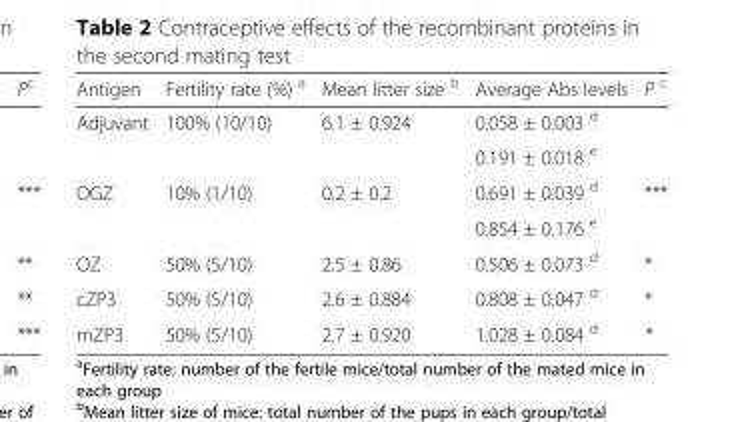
<table><thead><tr><td>Antigen</td><td>Fertility rate (%) <sup>a</sup></td><td>Mean litter size <sup>b</sup></td><td>Average Abs levels</td><td>P <sup>c</sup></td></tr></thead><tbody><tr><td rowspan="2">Adjuvant</td><td rowspan="2">100% (10/10)</td><td rowspan="2">6.1 ± 0.924</td><td>0.058 ± 0.003 <sup>d</sup></td><td rowspan="2"></td></tr><tr><td>0.191 ± 0.018 <sup>e</sup></td></tr><tr><td rowspan="2">OGZ</td><td rowspan="2">10% (1/10)</td><td rowspan="2">0.2 ± 0.2</td><td>0.691 ± 0.039 <sup>d</sup></td><td rowspan="2">***</td></tr><tr><td>0.854 ± 0.176 <sup>e</sup></td></tr><tr><td>OZ</td><td>50% (5/10)</td><td>2.5 ± 0.86</td><td>0.506 ± 0.073 <sup>d</sup></td><td>*</td></tr><tr><td>cZP3</td><td>50% (5/10)</td><td>2.6 ± 0.884</td><td>0.808 ± 0.047 <sup>d</sup></td><td>*</td></tr><tr><td>mZP3</td><td>50% (5/10)</td><td>2.7 ± 0.920</td><td>1.028 ± 0.084 <sup>d</sup></td><td>*</td></tr></tbody></table>